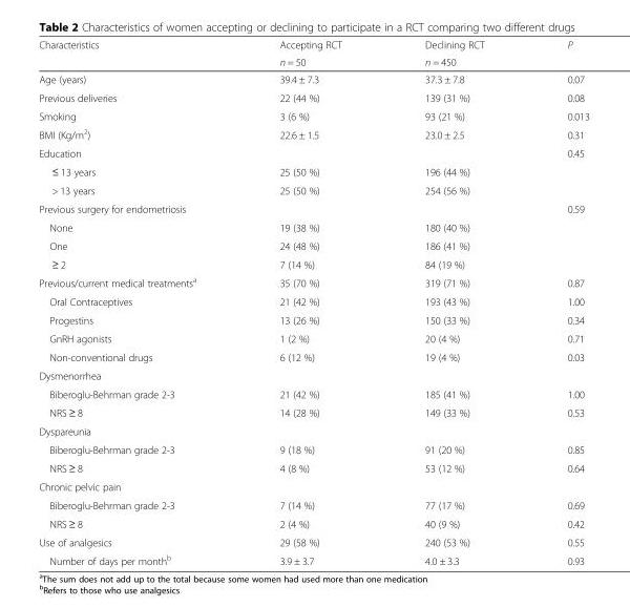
<table><thead><tr><td rowspan="2">Characteristics</td><td rowspan="2">Accepting RCT n = 50</td><td rowspan="2">Declining RCT n = 450</td><td rowspan="2">P</td></tr><tr></tr></thead><tbody><tr><td>Age (years)</td><td>39.4 ± 7.3</td><td>37.3 ± 7.8</td><td>0.07</td></tr><tr><td>Previous deliveries</td><td>22 (44 %)</td><td>139 (31 %)</td><td>0.08</td></tr><tr><td>Smoking</td><td>3 (6 %)</td><td>93 (21 %)</td><td>0.013</td></tr><tr><td>BMI (Kg/m<sup>2</sup>)</td><td>22.6 ± 1.5</td><td>23.0 ± 2.5</td><td>0.31</td></tr><tr><td>Education</td><td></td><td></td><td>0.45</td></tr><tr><td>≤ 13 years</td><td>25 (50 %)</td><td>196 (44 %)</td><td></td></tr><tr><td>&gt; 13 years</td><td>25 (50 %)</td><td>254 (56 %)</td><td></td></tr><tr><td>Previous surgery for endometriosis</td><td></td><td></td><td>0.59</td></tr><tr><td>None</td><td>19 (38 %)</td><td>180 (40 %)</td><td></td></tr><tr><td>One</td><td>24 (48 %)</td><td>186 (41 %)</td><td></td></tr><tr><td>≥ 2</td><td>7 (14 %)</td><td>84 (19 %)</td><td></td></tr><tr><td>Previous/current medical treatments<sup>a</sup></td><td>35 (70 %)</td><td>319 (71 %)</td><td>0.87</td></tr><tr><td>Oral Contraceptives</td><td>21 (42 %)</td><td>193 (43 %)</td><td>1.00</td></tr><tr><td>Progestins</td><td>13 (26 %)</td><td>150 (33 %)</td><td>0.34</td></tr><tr><td>GnRH agonists</td><td>1 (2 %)</td><td>20 (4 %)</td><td>0.71</td></tr><tr><td>Non-conventional drugs</td><td>6 (12 %)</td><td>19 (4 %)</td><td>0.03</td></tr><tr><td colspan="4">Dysmenorrhea</td></tr><tr><td>Biberoglu-Behrman grade 2-3</td><td>21 (42 %)</td><td>185 (41 %)</td><td>1.00</td></tr><tr><td>NRS ≥ 8</td><td>14 (28 %)</td><td>149 (33 %)</td><td>0.53</td></tr><tr><td colspan="4">Dyspareunia</td></tr><tr><td>Biberoglu-Behrman grade 2-3</td><td>9 (18 %)</td><td>91 (20 %)</td><td>0.85</td></tr><tr><td>NRS ≥ 8</td><td>4 (8 %)</td><td>53 (12 %)</td><td>0.64</td></tr><tr><td colspan="4">Chronic pelvic pain</td></tr><tr><td>Biberoglu-Behrman grade 2-3</td><td>7 (14 %)</td><td>77 (17 %)</td><td>0.69</td></tr><tr><td>NRS ≥ 8</td><td>2 (4 %)</td><td>40 (9 %)</td><td>0.42</td></tr><tr><td>Use of analgesics</td><td>29 (58 %)</td><td>240 (53 %)</td><td>0.55</td></tr><tr><td>Number of days per month<sup>b</sup></td><td>3.9 ± 3.7</td><td>4.0 ± 3.3</td><td>0.93</td></tr></tbody></table>